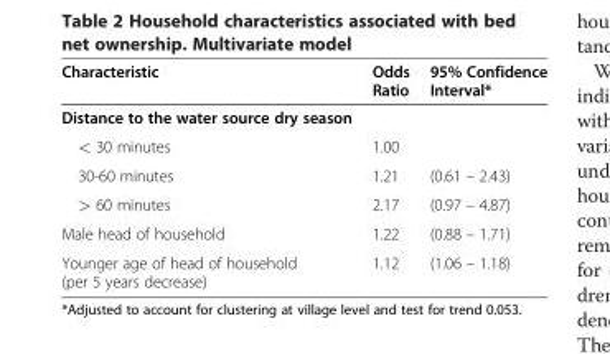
<table><thead><tr><td>Characteristic</td><td>Odds Ratio</td><td>95% Confidence Interval*</td></tr></thead><tbody><tr><td colspan="3">Distance to the water source dry season</td></tr><tr><td>&lt; 30 minutes</td><td>1.00</td><td></td></tr><tr><td>30-60 minutes</td><td>1.21</td><td>(0.61 – 2.43)</td></tr><tr><td>&gt; 60 minutes</td><td>2.17</td><td>(0.97 – 4.87)</td></tr><tr><td>Male head of household</td><td>1.22</td><td>(0.88 – 1.71)</td></tr><tr><td>Younger age of head of household (per 5 years decrease)</td><td>1.12</td><td>(1.06 – 1.18)</td></tr></tbody></table>